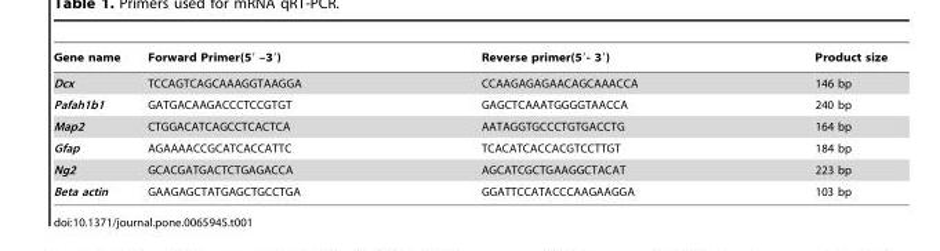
<table><thead><tr><td>Gene name</td><td>Forward Primer(5′ –3′)</td><td>Reverse primer(5′- 3′)</td><td>Product size</td></tr></thead><tbody><tr><td>Dcx</td><td>TCCAGTCAGCAAAGGTAAGGA</td><td>CCAAGAGAGAACAGCAAACCA</td><td>146 bp</td></tr><tr><td>Pafah1b1</td><td>GATGACAAGACCCTCCGTGT</td><td>GAGCTCAAATGGGGTAACCA</td><td>240 bp</td></tr><tr><td>Map2</td><td>CTGGACATCAGCCTCACTCA</td><td>AATAGGTGCCCTGTGACCTG</td><td>164 bp</td></tr><tr><td>Gfap</td><td>AGAAAACCGCATCACCATTC</td><td>TCACATCACCACGTCCTTGT</td><td>184 bp</td></tr><tr><td>Ng2</td><td>GCACGATGACTCTGAGACCA</td><td>AGCATCGCTGAAGGCTACAT</td><td>223 bp</td></tr><tr><td>Beta actin</td><td>GAAGAGCTATGAGCTGCCTGA</td><td>GGATTCCATACCCAAGAAGGA</td><td>103 bp</td></tr></tbody></table>